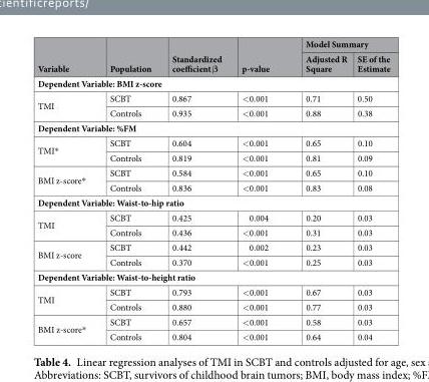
<table><thead><tr><td rowspan="2">Variable</td><td rowspan="2">Population</td><td rowspan="2">Standardized coefficient β</td><td rowspan="2">p-value</td><td colspan="2">Model Summary</td></tr><tr><td>Adjusted R Square</td><td>SE of the Estimate</td></tr></thead><tbody><tr><td colspan="6">Dependent Variable: BMI z-score</td></tr><tr><td rowspan="2">TMI</td><td>SCBT</td><td>0.867</td><td>&lt;0.001</td><td>0.71</td><td>0.50</td></tr><tr><td>Controls</td><td>0.935</td><td>&lt;0.001</td><td>0.88</td><td>0.38</td></tr><tr><td colspan="6">Dependent Variable: %FM</td></tr><tr><td rowspan="2">TMI*</td><td>SCBT</td><td>0.604</td><td>&lt;0.001</td><td>0.65</td><td>0.10</td></tr><tr><td>Controls</td><td>0.819</td><td>&lt;0.001</td><td>0.81</td><td>0.09</td></tr><tr><td rowspan="2">BMI z-score*</td><td>SCBT</td><td>0.584</td><td>&lt;0.001</td><td>0.65</td><td>0.10</td></tr><tr><td>Controls</td><td>0.836</td><td>&lt;0.001</td><td>0.83</td><td>0.08</td></tr><tr><td colspan="6">Dependent Variable: Waist-to-hip ratio</td></tr><tr><td rowspan="2">TMI</td><td>SCBT</td><td>0.425</td><td>0.004</td><td>0.20</td><td>0.03</td></tr><tr><td>Controls</td><td>0.436</td><td>&lt;0.001</td><td>0.31</td><td>0.03</td></tr><tr><td rowspan="2">BMI z-score</td><td>SCBT</td><td>0.442</td><td>0.002</td><td>0.23</td><td>0.03</td></tr><tr><td>Controls</td><td>0.370</td><td>&lt;0.001</td><td>0.25</td><td>0.03</td></tr><tr><td colspan="6">Dependent Variable: Waist-to-height ratio</td></tr><tr><td rowspan="2">TMI</td><td>SCBT</td><td>0.793</td><td>&lt;0.001</td><td>0.67</td><td>0.03</td></tr><tr><td>Controls</td><td>0.880</td><td>&lt;0.001</td><td>0.77</td><td>0.03</td></tr><tr><td rowspan="2">BMI z-score*</td><td>SCBT</td><td>0.657</td><td>&lt;0.001</td><td>0.58</td><td>0.03</td></tr><tr><td>Controls</td><td>0.804</td><td>&lt;0.001</td><td>0.64</td><td>0.04</td></tr></tbody></table>